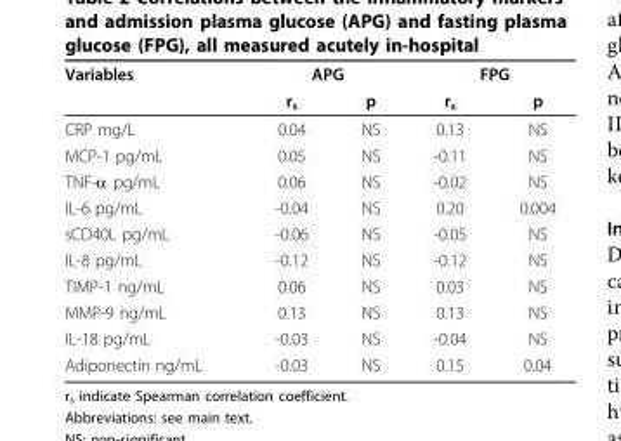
<table><thead><tr><td rowspan="2">Variables</td><td colspan="2">APG</td><td colspan="2">FPG</td></tr><tr><td>r<sub>s</sub></td><td>p</td><td>r<sub>s</sub></td><td>p</td></tr></thead><tbody><tr><td>CRP mg/L</td><td>0.04</td><td>NS</td><td>0.13</td><td>NS</td></tr><tr><td>MCP-1 pg/mL</td><td>0.05</td><td>NS</td><td>-0.11</td><td>NS</td></tr><tr><td>TNF-α pg/mL</td><td>0.06</td><td>NS</td><td>-0.02</td><td>NS</td></tr><tr><td>IL-6 pg/mL</td><td>-0.04</td><td>NS</td><td>0.20</td><td>0.004</td></tr><tr><td>sCD40L pg/mL</td><td>-0.06</td><td>NS</td><td>-0.05</td><td>NS</td></tr><tr><td>IL-8 pg/mL</td><td>-0.12</td><td>NS</td><td>-0.12</td><td>NS</td></tr><tr><td>TIMP-1 ng/mL</td><td>0.06</td><td>NS</td><td>0.03</td><td>NS</td></tr><tr><td>MMP-9 ng/mL</td><td>0.13</td><td>NS</td><td>0.13</td><td>NS</td></tr><tr><td>IL-18 pg/mL</td><td>-0.03</td><td>NS</td><td>-0.04</td><td>NS</td></tr><tr><td>Adiponectin ng/mL</td><td>-0.03</td><td>NS</td><td>0.15</td><td>0.04</td></tr></tbody></table>